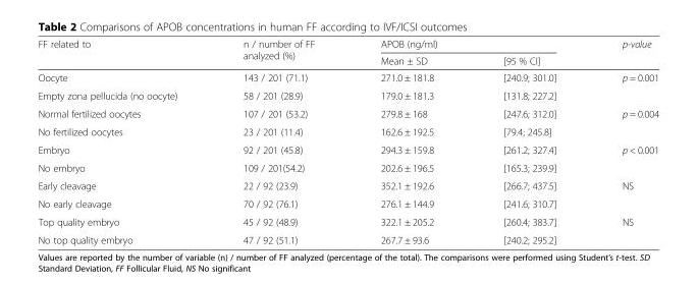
<table><thead><tr><td rowspan="2">FF related to</td><td rowspan="2">n / number of FF analyzed (%)</td><td rowspan="2">APOB (ng/ml) Mean ± SD</td><td rowspan="2">[95 % CI]</td><td rowspan="2">p-value</td></tr><tr></tr></thead><tbody><tr><td>Oocyte</td><td>143 / 201 (71.1)</td><td>271.0 ± 181.8</td><td>[240.9; 301.0]</td><td>p = 0.001</td></tr><tr><td>Empty zona pellucida (no oocyte)</td><td>58 / 201 (28.9)</td><td>179.0 ± 181.3</td><td>[131.8; 227.2]</td><td></td></tr><tr><td>Normal fertilized oocytes</td><td>107 / 201 (53.2)</td><td>279.8 ± 168</td><td>[247.6; 312.0]</td><td>p = 0.004</td></tr><tr><td>No fertilized oocytes</td><td>23 / 201 (11.4)</td><td>162.6 ± 192.5</td><td>[79.4; 245.8]</td><td></td></tr><tr><td>Embryo</td><td>92 / 201 (45.8)</td><td>294.3 ± 159.8</td><td>[261.2; 327.4]</td><td>p &lt; 0.001</td></tr><tr><td>No embryo</td><td>109 / 201(54.2)</td><td>202.6 ± 196.5</td><td>[165.3; 239.9]</td><td></td></tr><tr><td>Early cleavage</td><td>22 / 92 (23.9)</td><td>352.1 ± 192.6</td><td>[266.7; 437.5]</td><td>NS</td></tr><tr><td>No early cleavage</td><td>70 / 92 (76.1)</td><td>276.1 ± 144.9</td><td>[241.6; 310.7]</td><td></td></tr><tr><td>Top quality embryo</td><td>45 / 92 (48.9)</td><td>322.1 ± 205.2</td><td>[260.4; 383.7]</td><td>NS</td></tr><tr><td>No top quality embryo</td><td>47 / 92 (51.1)</td><td>267.7 ± 93.6</td><td>[240.2; 295.2]</td><td></td></tr></tbody></table>